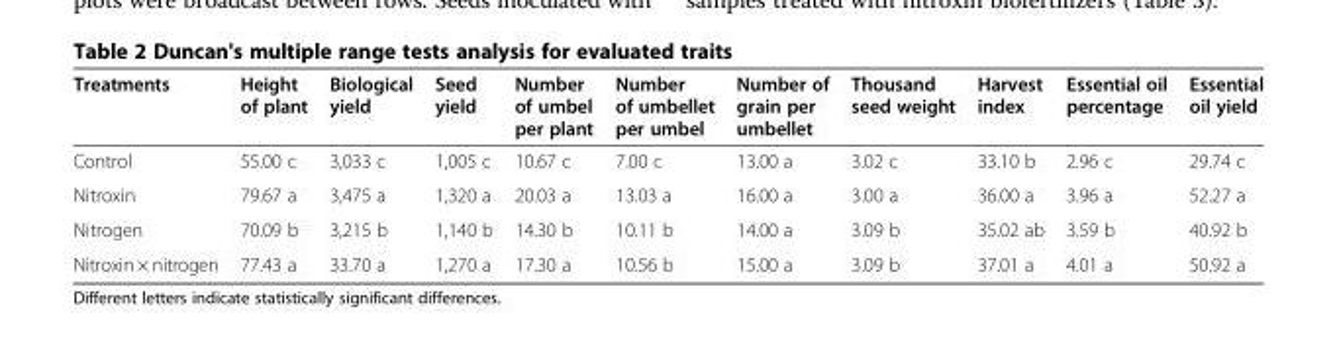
<table><thead><tr><td>Treatments</td><td>Height of plant</td><td>Biological yield</td><td>Seed yield</td><td>Number of umbel per plant</td><td>Number of umbellet per umbel</td><td>Number of grain per umbellet</td><td>Thousand seed weight</td><td>Harvest index</td><td>Essential oil percentage</td><td>Essential oil yield</td></tr></thead><tbody><tr><td>Control</td><td>55.00 c</td><td>3,033 c</td><td>1,005 c</td><td>10.67 c</td><td>7.00 c</td><td>13.00 a</td><td>3.02 c</td><td>33.10 b</td><td>2.96 c</td><td>29.74 c</td></tr><tr><td>Nitroxin</td><td>79.67 a</td><td>3,475 a</td><td>1,320 a</td><td>20.03 a</td><td>13.03 a</td><td>16.00 a</td><td>3.00 a</td><td>36.00 a</td><td>3.96 a</td><td>52.27 a</td></tr><tr><td>Nitrogen</td><td>70.09 b</td><td>3,215 b</td><td>1,140 b</td><td>14.30 b</td><td>10.11 b</td><td>14.00 a</td><td>3.09 b</td><td>35.02 ab</td><td>3.59 b</td><td>40.92 b</td></tr><tr><td>Nitroxin × nitrogen</td><td>77.43 a</td><td>33.70 a</td><td>1,270 a</td><td>17.30 a</td><td>10.56 b</td><td>15.00 a</td><td>3.09 b</td><td>37.01 a</td><td>4.01 a</td><td>50.92 a</td></tr></tbody></table>